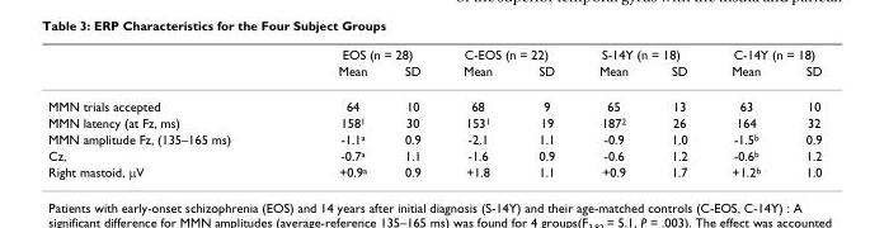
<table><thead><tr><td rowspan="2"></td><td colspan="2">EOS (n = 28)</td><td colspan="2">C-EOS (n = 22)</td><td colspan="2">S-14Y (n = 18)</td><td colspan="2">C-14Y (n = 18)</td></tr><tr><td>Mean</td><td>SD</td><td>Mean</td><td>SD</td><td>Mean</td><td>SD</td><td>Mean</td><td>SD</td></tr></thead><tbody><tr><td>MMN trials accepted</td><td>64</td><td>10</td><td>68</td><td>9</td><td>65</td><td>13</td><td>63</td><td>10</td></tr><tr><td>MMN latency (at Fz, ms)</td><td>158<sup>1</sup></td><td>30</td><td>153<sup>1</sup></td><td>19</td><td>187<sup>2</sup></td><td>26</td><td>164</td><td>32</td></tr><tr><td>MMN amplitude Fz, (135–165 ms)</td><td>-1.1<sup>a</sup></td><td>0.9</td><td>-2.1</td><td>1.1</td><td>-0.9</td><td>1.0</td><td>-1.5<sup>b</sup></td><td>0.9</td></tr><tr><td>Cz,</td><td>-0.7<sup>a</sup></td><td>1.1</td><td>-1.6</td><td>0.9</td><td>-0.6</td><td>1.2</td><td>-0.6<sup>b</sup></td><td>1.2</td></tr><tr><td>Right mastoid, µV</td><td>+0.9<sup>a</sup></td><td>0.9</td><td>+1.8</td><td>1.1</td><td>+0.9</td><td>1.7</td><td>+1.2<sup>b</sup></td><td>1.0</td></tr></tbody></table>